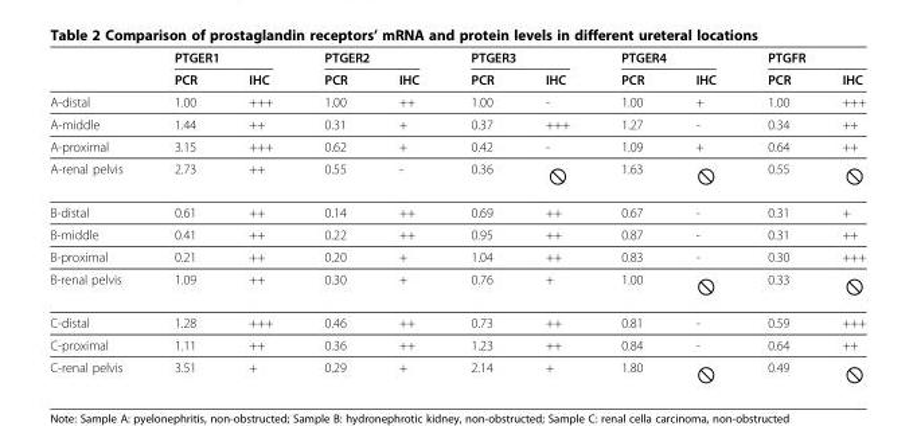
<table><thead><tr><td rowspan="2"></td><td colspan="2">PTGER1</td><td colspan="2">PTGER2</td><td colspan="2">PTGER3</td><td colspan="2">PTGER4</td><td colspan="2">PTGFR</td></tr><tr><td>PCR</td><td>IHC</td><td>PCR</td><td>IHC</td><td>PCR</td><td>IHC</td><td>PCR</td><td>IHC</td><td>PCR</td><td>IHC</td></tr></thead><tbody><tr><td>A-distal</td><td>1.00</td><td>+++</td><td>1.00</td><td>++</td><td>1.00</td><td>-</td><td>1.00</td><td>+</td><td>1.00</td><td>+++</td></tr><tr><td>A-middle</td><td>1.44</td><td>++</td><td>0.31</td><td>+</td><td>0.37</td><td>+++</td><td>1.27</td><td>-</td><td>0.34</td><td>++</td></tr><tr><td>A-proximal</td><td>3.15</td><td>+++</td><td>0.62</td><td>+</td><td>0.42</td><td>-</td><td>1.09</td><td>+</td><td>0.64</td><td>++</td></tr><tr><td>A-renal pelvis</td><td>2.73</td><td>++</td><td>0.55</td><td>-</td><td>0.36</td><td></td><td>1.63</td><td></td><td>0.55</td><td></td></tr><tr><td>B-distal</td><td>0.61</td><td>++</td><td>0.14</td><td>++</td><td>0.69</td><td>++</td><td>0.67</td><td>-</td><td>0.31</td><td>+</td></tr><tr><td>B-middle</td><td>0.41</td><td>++</td><td>0.22</td><td>++</td><td>0.95</td><td>++</td><td>0.87</td><td>-</td><td>0.31</td><td>++</td></tr><tr><td>B-proximal</td><td>0.21</td><td>++</td><td>0.20</td><td>+</td><td>1.04</td><td>++</td><td>0.83</td><td>-</td><td>0.30</td><td>+++</td></tr><tr><td>B-renal pelvis</td><td>1.09</td><td>++</td><td>0.30</td><td>+</td><td>0.76</td><td>+</td><td>1.00</td><td></td><td>0.33</td><td></td></tr><tr><td>C-distal</td><td>1.28</td><td>+++</td><td>0.46</td><td>++</td><td>0.73</td><td>++</td><td>0.81</td><td>-</td><td>0.59</td><td>+++</td></tr><tr><td>C-proximal</td><td>1.11</td><td>++</td><td>0.36</td><td>++</td><td>1.23</td><td>++</td><td>0.84</td><td>-</td><td>0.64</td><td>++</td></tr><tr><td>C-renal pelvis</td><td>3.51</td><td>+</td><td>0.29</td><td>+</td><td>2.14</td><td>+</td><td>1.80</td><td></td><td>0.49</td><td></td></tr></tbody></table>